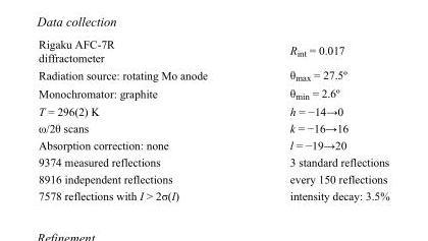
<table><tbody><tr><td>Rigaku AFC-7R diffractometer</td><td>R<sub>int</sub> = 0.017</td></tr><tr><td>Radiation source: rotating Mo anode</td><td>θ<sub>max</sub> = 27.5º</td></tr><tr><td>Monochromator: graphite</td><td>θ<sub>min</sub> = 2.6º</td></tr><tr><td>T = 296(2) K</td><td>h = −14→0</td></tr><tr><td>ω/2θ scans</td><td>k = −16→16</td></tr><tr><td>Absorption correction: none</td><td>l = −19→20</td></tr><tr><td>9374 measured reflections</td><td>3 standard reflections</td></tr><tr><td>8916 independent reflections</td><td>every 150 reflections</td></tr><tr><td>7578 reflections with I &gt; 2σ(I)</td><td>intensity decay: 3.5%</td></tr></tbody></table>